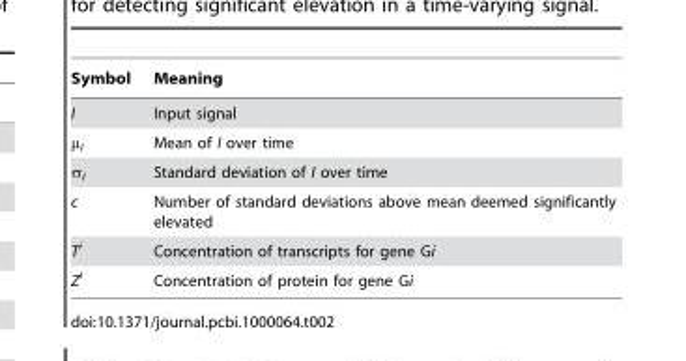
<table><thead><tr><td>Symbol</td><td>Meaning</td></tr></thead><tbody><tr><td>I</td><td>Input signal</td></tr><tr><td>μ<sub>I</sub></td><td>Mean of I over time</td></tr><tr><td>σ<sub>I</sub></td><td>Standard deviation of I over time</td></tr><tr><td>c</td><td>Number of standard deviations above mean deemed significantly elevated</td></tr><tr><td>T<sup>i</sup></td><td>Concentration of transcripts for gene Gi</td></tr><tr><td>Z<sup>i</sup></td><td>Concentration of protein for gene Gi</td></tr></tbody></table>